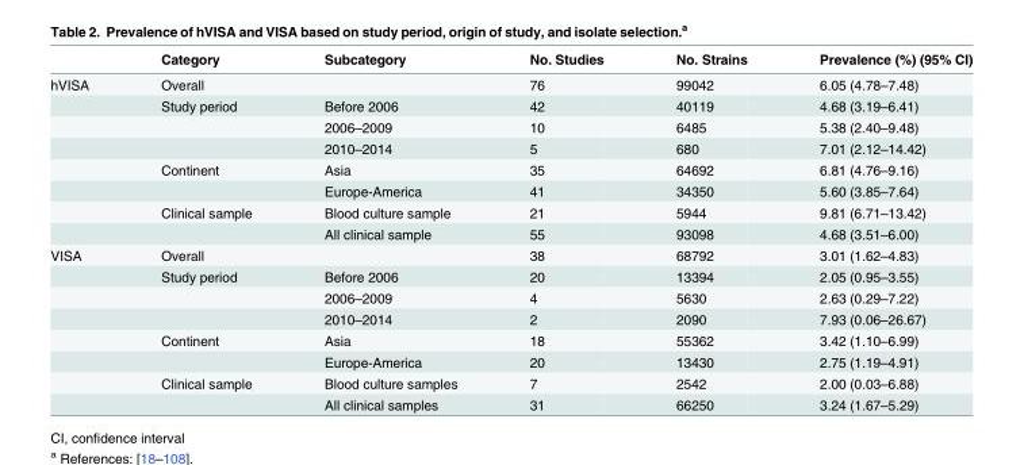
<table><thead><tr><td></td><td>Category</td><td>Subcategory</td><td>No. Studies</td><td>No. Strains</td><td>Prevalence (%) (95% CI)</td></tr></thead><tbody><tr><td rowspan="8">hVISA</td><td>Overall</td><td></td><td>76</td><td>99042</td><td>6.05 (4.78–7.48)</td></tr><tr><td>Study period</td><td>Before 2006</td><td>42</td><td>40119</td><td>4.68 (3.19–6.41)</td></tr><tr><td></td><td>2006–2009</td><td>10</td><td>6485</td><td>5.38 (2.40–9.48)</td></tr><tr><td></td><td>2010–2014</td><td>5</td><td>680</td><td>7.01 (2.12–14.42)</td></tr><tr><td>Continent</td><td>Asia</td><td>35</td><td>64692</td><td>6.81 (4.76–9.16)</td></tr><tr><td></td><td>Europe-America</td><td>41</td><td>34350</td><td>5.60 (3.85–7.64)</td></tr><tr><td>Clinical sample</td><td>Blood culture sample</td><td>21</td><td>5944</td><td>9.81 (6.71–13.42)</td></tr><tr><td></td><td>All clinical sample</td><td>55</td><td>93098</td><td>4.68 (3.51–6.00)</td></tr><tr><td rowspan="8">VISA</td><td>Overall</td><td></td><td>38</td><td>68792</td><td>3.01 (1.62–4.83)</td></tr><tr><td>Study period</td><td>Before 2006</td><td>20</td><td>13394</td><td>2.05 (0.95–3.55)</td></tr><tr><td></td><td>2006–2009</td><td>4</td><td>5630</td><td>2.63 (0.29–7.22)</td></tr><tr><td></td><td>2010–2014</td><td>2</td><td>2090</td><td>7.93 (0.06–26.67)</td></tr><tr><td>Continent</td><td>Asia</td><td>18</td><td>55362</td><td>3.42 (1.10–6.99)</td></tr><tr><td></td><td>Europe-America</td><td>20</td><td>13430</td><td>2.75 (1.19–4.91)</td></tr><tr><td>Clinical sample</td><td>Blood culture samples</td><td>7</td><td>2542</td><td>2.00 (0.03–6.88)</td></tr><tr><td></td><td>All clinical samples</td><td>31</td><td>66250</td><td>3.24 (1.67–5.29)</td></tr></tbody></table>